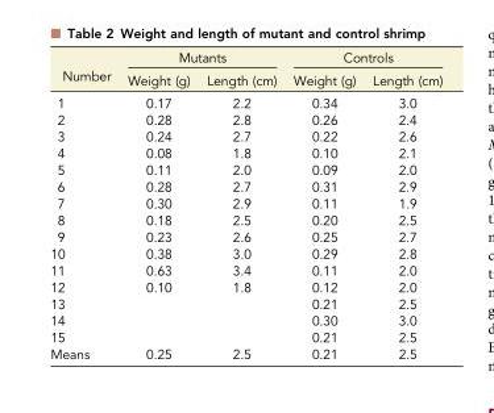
<table><thead><tr><td rowspan="2">Number</td><td colspan="2">Mutants</td><td colspan="2">Controls</td></tr><tr><td>Weight (g)</td><td>Length (cm)</td><td>Weight (g)</td><td>Length (cm)</td></tr></thead><tbody><tr><td>1</td><td>0.17</td><td>2.2</td><td>0.34</td><td>3.0</td></tr><tr><td>2</td><td>0.28</td><td>2.8</td><td>0.26</td><td>2.4</td></tr><tr><td>3</td><td>0.24</td><td>2.7</td><td>0.22</td><td>2.6</td></tr><tr><td>4</td><td>0.08</td><td>1.8</td><td>0.10</td><td>2.1</td></tr><tr><td>5</td><td>0.11</td><td>2.0</td><td>0.09</td><td>2.0</td></tr><tr><td>6</td><td>0.28</td><td>2.7</td><td>0.31</td><td>2.9</td></tr><tr><td>7</td><td>0.30</td><td>2.9</td><td>0.11</td><td>1.9</td></tr><tr><td>8</td><td>0.18</td><td>2.5</td><td>0.20</td><td>2.5</td></tr><tr><td>9</td><td>0.23</td><td>2.6</td><td>0.25</td><td>2.7</td></tr><tr><td>10</td><td>0.38</td><td>3.0</td><td>0.29</td><td>2.8</td></tr><tr><td>11</td><td>0.63</td><td>3.4</td><td>0.11</td><td>2.0</td></tr><tr><td>12</td><td>0.10</td><td>1.8</td><td>0.12</td><td>2.0</td></tr><tr><td>13</td><td></td><td></td><td>0.21</td><td>2.5</td></tr><tr><td>14</td><td></td><td></td><td>0.30</td><td>3.0</td></tr><tr><td>15</td><td></td><td></td><td>0.21</td><td>2.5</td></tr><tr><td>Means</td><td>0.25</td><td>2.5</td><td>0.21</td><td>2.5</td></tr></tbody></table>